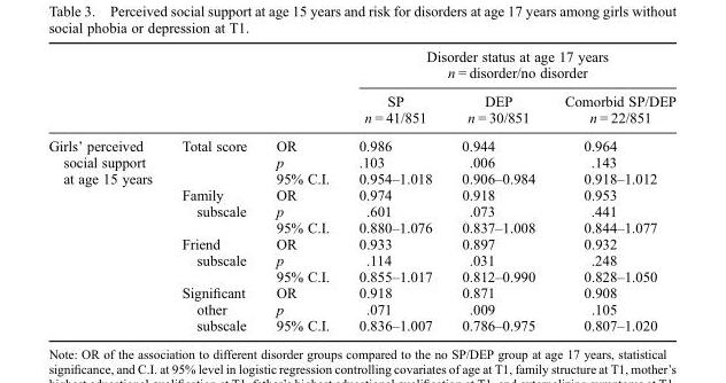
<table><thead><tr><td rowspan="4"></td><td rowspan="4"></td><td rowspan="4"></td><td rowspan="2" colspan="3">Disorder status at age 17 years n = disorder/no disorder</td></tr><tr></tr><tr><td rowspan="2">SP n = 41/851</td><td rowspan="2">DEP n = 30/851</td><td rowspan="2">Comorbid SP/DEP n = 22/851</td></tr><tr></tr></thead><tbody><tr><td rowspan="12">Girls’ perceived social support at age 15 years</td><td rowspan="3">Total score</td><td>OR</td><td>0.986</td><td>0.944</td><td>0.964</td></tr><tr><td>p</td><td>.103</td><td>.006</td><td>.143</td></tr><tr><td>95% C.I.</td><td>0.954–1.018</td><td>0.906–0.984</td><td>0.918–1.012</td></tr><tr><td rowspan="3">Family subscale</td><td>OR</td><td>0.974</td><td>0.918</td><td>0.953</td></tr><tr><td>p</td><td>.601</td><td>.073</td><td>.441</td></tr><tr><td>95% C.I.</td><td>0.880–1.076</td><td>0.837–1.008</td><td>0.844–1.077</td></tr><tr><td rowspan="3">Friend subscale</td><td>OR</td><td>0.933</td><td>0.897</td><td>0.932</td></tr><tr><td>p</td><td>.114</td><td>.031</td><td>.248</td></tr><tr><td>95% C.I.</td><td>0.855–1.017</td><td>0.812–0.990</td><td>0.828–1.050</td></tr><tr><td rowspan="3">Significant other subscale</td><td>OR</td><td>0.918</td><td>0.871</td><td>0.908</td></tr><tr><td>p</td><td>.071</td><td>.009</td><td>.105</td></tr><tr><td>95% C.I.</td><td>0.836–1.007</td><td>0.786–0.975</td><td>0.807–1.020</td></tr></tbody></table>